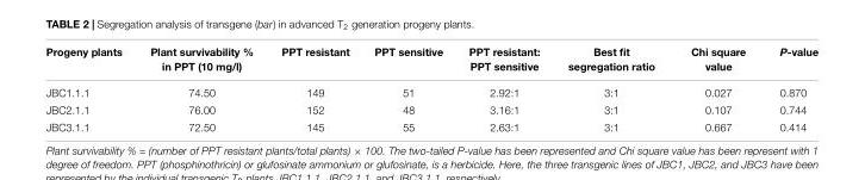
<table><thead><tr><td>Progeny plants</td><td>Plant survivability % in PPT (10 mg/l)</td><td>PPT resistant</td><td>PPT sensitive</td><td>PPT resistant: PPT sensitive</td><td>Best fit segregation ratio</td><td>Chi square value</td><td>P-value</td></tr></thead><tbody><tr><td>JBC1.1.1</td><td>74.50</td><td>149</td><td>51</td><td>2.92:1</td><td>3:1</td><td>0.027</td><td>0.870</td></tr><tr><td>JBC2.1.1</td><td>76.00</td><td>152</td><td>48</td><td>3.16:1</td><td>3:1</td><td>0.107</td><td>0.744</td></tr><tr><td>JBC3.1.1</td><td>72.50</td><td>145</td><td>55</td><td>2.63:1</td><td>3:1</td><td>0.667</td><td>0.414</td></tr></tbody></table>